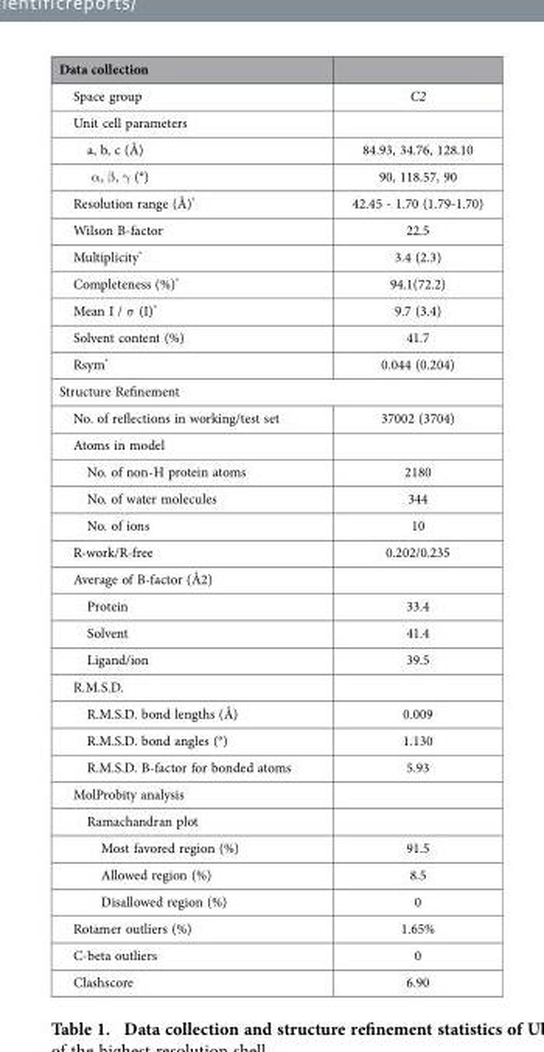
<table><thead><tr><td>Data collection</td><td></td></tr></thead><tbody><tr><td>Space group</td><td>C2</td></tr><tr><td colspan="2">Unit cell parameters</td></tr><tr><td>a, b, c (Å)</td><td>84.93, 34.76, 128.10</td></tr><tr><td>α , β , γ (°)</td><td>90, 118.57, 90</td></tr><tr><td>Resolution range (Å)*</td><td>42.45 - 1.70 (1.79-1.70)</td></tr><tr><td>Wilson B-factor</td><td>22.5</td></tr><tr><td>Multiplicity*</td><td>3.4 (2.3)</td></tr><tr><td>Completeness (%)*</td><td>94.1(72.2)</td></tr><tr><td>Mean I / σ (I)*</td><td>9.7 (3.4)</td></tr><tr><td>Solvent content (%)</td><td>41.7</td></tr><tr><td>Rsym*</td><td>0.044 (0.204)</td></tr><tr><td colspan="2">Structure Refinement</td></tr><tr><td>No. of reflections in working/test set</td><td>37002 (3704)</td></tr><tr><td colspan="2">Atoms in model</td></tr><tr><td>No. of non-H protein atoms</td><td>2180</td></tr><tr><td>No. of water molecules</td><td>344</td></tr><tr><td>No. of ions</td><td>10</td></tr><tr><td>R-work/R-free</td><td>0.202/0.235</td></tr><tr><td colspan="2">Average of B-factor (Å2)</td></tr><tr><td>Protein</td><td>33.4</td></tr><tr><td>Solvent</td><td>41.4</td></tr><tr><td>Ligand/ion</td><td>39.5</td></tr><tr><td colspan="2">R.M.S.D.</td></tr><tr><td>R.M.S.D. bond lengths (Å)</td><td>0.009</td></tr><tr><td>R.M.S.D. bond angles (°)</td><td>1.130</td></tr><tr><td>R.M.S.D. B-factor for bonded atoms</td><td>5.93</td></tr><tr><td colspan="2">MolProbity analysis</td></tr><tr><td colspan="2">Ramachandran plot</td></tr><tr><td>Most favored region (%)</td><td>91.5</td></tr><tr><td>Allowed region (%)</td><td>8.5</td></tr><tr><td>Disallowed region (%)</td><td>0</td></tr><tr><td>Rotamer outliers (%)</td><td>1.65%</td></tr><tr><td>C-beta outliers</td><td>0</td></tr><tr><td>Clashscore</td><td>6.90</td></tr></tbody></table>